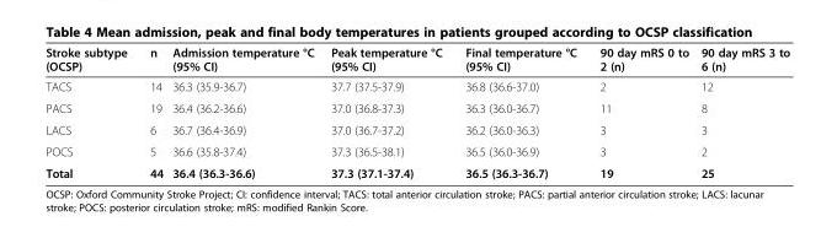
<table><thead><tr><td>Stroke subtype (OCSP)</td><td>n</td><td>Admission temperature °C (95% CI)</td><td>Peak temperature °C (95% CI)</td><td>Final temperature °C (95% CI)</td><td>90 day mRS 0 to 2 (n)</td><td>90 day mRS 3 to 6 (n)</td></tr></thead><tbody><tr><td>TACS</td><td>14</td><td>36.3 (35.9-36.7)</td><td>37.7 (37.5-37.9)</td><td>36.8 (36.6-37.0)</td><td>2</td><td>12</td></tr><tr><td>PACS</td><td>19</td><td>36.4 (36.2-36.6)</td><td>37.0 (36.8-37.3)</td><td>36.3 (36.0-36.7)</td><td>11</td><td>8</td></tr><tr><td>LACS</td><td>6</td><td>36.7 (36.4-36.9)</td><td>37.0 (36.7-37.2)</td><td>36.2 (36.0-36.3)</td><td>3</td><td>3</td></tr><tr><td>POCS</td><td>5</td><td>36.6 (35.8-37.4)</td><td>37.3 (36.5-38.1)</td><td>36.5 (36.0-36.9)</td><td>3</td><td>2</td></tr><tr><td>Total</td><td>44</td><td>36.4 (36.3-36.6)</td><td>37.3 (37.1-37.4)</td><td>36.5 (36.3-36.7)</td><td>19</td><td>25</td></tr></tbody></table>